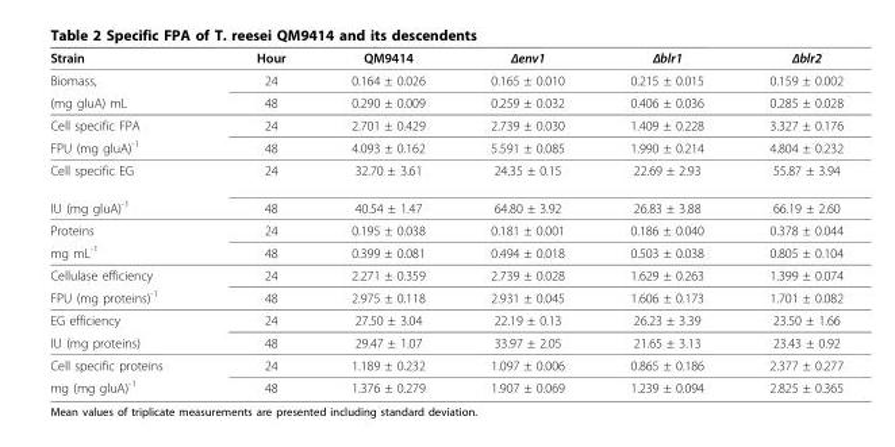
<table><thead><tr><td>Strain</td><td>Hour</td><td>QM9414</td><td>Δenv1</td><td>Δblr1</td><td>Δblr2</td></tr></thead><tbody><tr><td>Biomass,</td><td>24</td><td>0.164 ± 0.026</td><td>0.165 ± 0.010</td><td>0.215 ± 0.015</td><td>0.159 ± 0.002</td></tr><tr><td>(mg gluA) mL</td><td>48</td><td>0.290 ± 0.009</td><td>0.259 ± 0.032</td><td>0.406 ± 0.036</td><td>0.285 ± 0.028</td></tr><tr><td>Cell specific FPA</td><td>24</td><td>2.701 ± 0.429</td><td>2.739 ± 0.030</td><td>1.409 ± 0.228</td><td>3.327 ± 0.176</td></tr><tr><td>FPU (mg gluA)<sup>-1</sup></td><td>48</td><td>4.093 ± 0.162</td><td>5.591 ± 0.085</td><td>1.990 ± 0.214</td><td>4.804 ± 0.232</td></tr><tr><td>Cell specific EG</td><td>24</td><td>32.70 ± 3.61</td><td>24.35 ± 0.15</td><td>22.69 ± 2.93</td><td>55.87 ± 3.94</td></tr><tr><td>IU (mg gluA)<sup>-1</sup></td><td>48</td><td>40.54 ± 1.47</td><td>64.80 ± 3.92</td><td>26.83 ± 3.88</td><td>66.19 ± 2.60</td></tr><tr><td>Proteins</td><td>24</td><td>0.195 ± 0.038</td><td>0.181 ± 0.001</td><td>0.186 ± 0.040</td><td>0.378 ± 0.044</td></tr><tr><td>mg mL<sup>-1</sup></td><td>48</td><td>0.399 ± 0.081</td><td>0.494 ± 0.018</td><td>0.503 ± 0.038</td><td>0.805 ± 0.104</td></tr><tr><td>Cellulase efficiency</td><td>24</td><td>2.271 ± 0.359</td><td>2.739 ± 0.028</td><td>1.629 ± 0.263</td><td>1.399 ± 0.074</td></tr><tr><td>FPU (mg proteins)<sup>-1</sup></td><td>48</td><td>2.975 ± 0.118</td><td>2.931 ± 0.045</td><td>1.606 ± 0.173</td><td>1.701 ± 0.082</td></tr><tr><td>EG efficiency</td><td>24</td><td>27.50 ± 3.04</td><td>22.19 ± 0.13</td><td>26.23 ± 3.39</td><td>23.50 ± 1.66</td></tr><tr><td>IU (mg proteins)</td><td>48</td><td>29.47 ± 1.07</td><td>33.97 ± 2.05</td><td>21.65 ± 3.13</td><td>23.43 ± 0.92</td></tr><tr><td>Cell specific proteins</td><td>24</td><td>1.189 ± 0.232</td><td>1.097 ± 0.006</td><td>0.865 ± 0.186</td><td>2.377 ± 0.277</td></tr><tr><td>mg (mg gluA)<sup>-1</sup></td><td>48</td><td>1.376 ± 0.279</td><td>1.907 ± 0.069</td><td>1.239 ± 0.094</td><td>2.825 ± 0.365</td></tr></tbody></table>